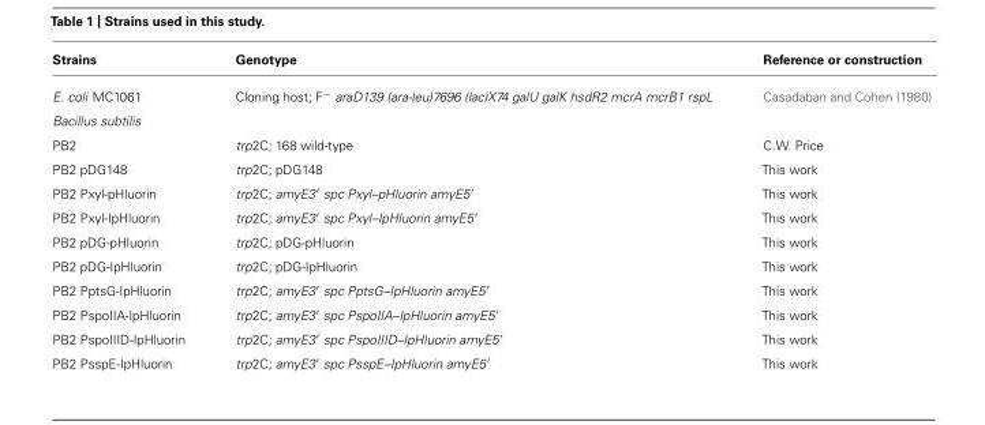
<table><thead><tr><td>Strains</td><td>Genotype</td><td>Reference or construction</td></tr></thead><tbody><tr><td>E. coli MC1061</td><td>Cloning host; F<sup>−</sup> araD139 (ara-leu)7696 (lac)X74 galU galK hsdR2 mcrA mcrB1 rspL</td><td>Casadaban and Cohen (1980)</td></tr><tr><td colspan="3">Bacillus subtilis</td></tr><tr><td>PB2</td><td>trp2C; 168 wild-type</td><td>C.W. Price</td></tr><tr><td>PB2 pDG148</td><td>trp2C; pDG148</td><td>This work</td></tr><tr><td>PB2 Pxyl-pHluorin</td><td>trp2C; amyE3′ spc Pxyl–pHluorin amyE5′</td><td>This work</td></tr><tr><td>PB2 Pxyl-IpHluorin</td><td>trp2C; amyE3′ spc Pxyl–IpHluorin amyE5′</td><td>This work</td></tr><tr><td>PB2 pDG-pHluorin</td><td>trp2C; pDG-pHluorin</td><td>This work</td></tr><tr><td>PB2 pDG-IpHluorin</td><td>trp2C; pDG-IpHluorin</td><td>This work</td></tr><tr><td>PB2 PptsG-IpHluorin</td><td>trp2C; amyE3′ spc PptsG–IpHluorin amyE5′</td><td>This work</td></tr><tr><td>PB2 PspoIIA-IpHluorin</td><td>trp2C; amyE3′ spc PspoIIA–IpHluorin amyE5′</td><td>This work</td></tr><tr><td>PB2 PspoIIID-IpHluorin</td><td>trp2C; amyE3′ spc PspoIIID–IpHluorin amyE5′</td><td>This work</td></tr><tr><td>PB2 PsspE-IpHluorin</td><td>trp2C; amyE3′ spc PsspE–IpHluorin amyE5′</td><td>This work</td></tr></tbody></table>